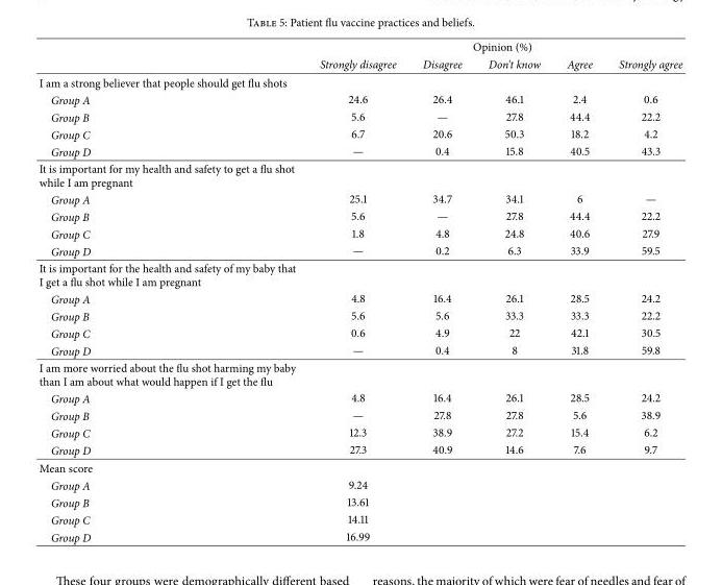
<table><thead><tr><td rowspan="2"></td><td colspan="5">Opinion (%)</td></tr><tr><td>Strongly disagree</td><td>Disagree</td><td>Don’t know</td><td>Agree</td><td>Strongly agree</td></tr></thead><tbody><tr><td colspan="6">I am a strong believer that people should get flu shots</td></tr><tr><td>Group A</td><td>24.6</td><td>26.4</td><td>46.1</td><td>2.4</td><td>0.6</td></tr><tr><td>Group B</td><td>5.6</td><td>—</td><td>27.8</td><td>44.4</td><td>22.2</td></tr><tr><td>Group C</td><td>6.7</td><td>20.6</td><td>50.3</td><td>18.2</td><td>4.2</td></tr><tr><td>Group D</td><td>—</td><td>0.4</td><td>15.8</td><td>40.5</td><td>43.3</td></tr><tr><td colspan="6">It is important for my health and safety to get a flu shot while I am pregnant</td></tr><tr><td>Group A</td><td>25.1</td><td>34.7</td><td>34.1</td><td>6</td><td>—</td></tr><tr><td>Group B</td><td>5.6</td><td>—</td><td>27.8</td><td>44.4</td><td>22.2</td></tr><tr><td>Group C</td><td>1.8</td><td>4.8</td><td>24.8</td><td>40.6</td><td>27.9</td></tr><tr><td>Group D</td><td>—</td><td>0.2</td><td>6.3</td><td>33.9</td><td>59.5</td></tr><tr><td colspan="6">It is important for the health and safety of my baby that I get a flu shot while I am pregnant</td></tr><tr><td>Group A</td><td>4.8</td><td>16.4</td><td>26.1</td><td>28.5</td><td>24.2</td></tr><tr><td>Group B</td><td>5.6</td><td>5.6</td><td>33.3</td><td>33.3</td><td>22.2</td></tr><tr><td>Group C</td><td>0.6</td><td>4.9</td><td>22</td><td>42.1</td><td>30.5</td></tr><tr><td>Group D</td><td>—</td><td>0.4</td><td>8</td><td>31.8</td><td>59.8</td></tr><tr><td colspan="6">I am more worried about the flu shot harming my baby than I am about what would happen if I get the flu</td></tr><tr><td>Group A</td><td>4.8</td><td>16.4</td><td>26.1</td><td>28.5</td><td>24.2</td></tr><tr><td>Group B</td><td>—</td><td>27.8</td><td>27.8</td><td>5.6</td><td>38.9</td></tr><tr><td>Group C</td><td>12.3</td><td>38.9</td><td>27.2</td><td>15.4</td><td>6.2</td></tr><tr><td>Group D</td><td>27.3</td><td>40.9</td><td>14.6</td><td>7.6</td><td>9.7</td></tr><tr><td colspan="6">Mean score</td></tr><tr><td>Group A</td><td>9.24</td><td></td><td></td><td></td><td></td></tr><tr><td>Group B</td><td>13.61</td><td></td><td></td><td></td><td></td></tr><tr><td>Group C</td><td>14.11</td><td></td><td></td><td></td><td></td></tr><tr><td>Group D</td><td>16.99</td><td></td><td></td><td></td><td></td></tr></tbody></table>